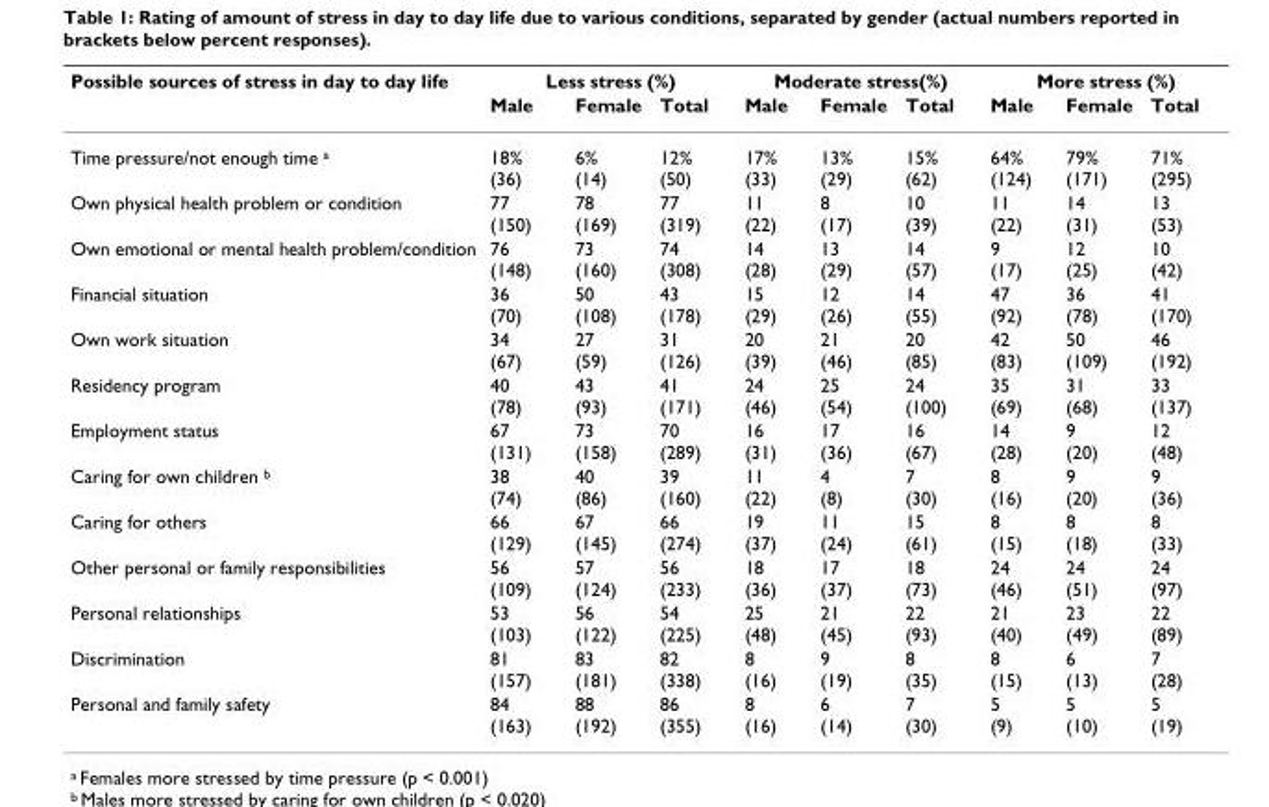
<table><thead><tr><td rowspan="2">Possible sources of stress in day to day life</td><td colspan="3">Less stress (%)</td><td colspan="3">Moderate stress(%)</td><td colspan="3">More stress (%)</td></tr><tr><td>Male</td><td>Female</td><td>Total</td><td>Male</td><td>Female</td><td>Total</td><td>Male</td><td>Female</td><td>Total</td></tr></thead><tbody><tr><td>Time pressure/not enough time <sup>a</sup></td><td>18% (36)</td><td>6% (14)</td><td>12% (50)</td><td>17% (33)</td><td>13% (29)</td><td>15% (62)</td><td>64% (124)</td><td>79% (171)</td><td>71% (295)</td></tr><tr><td>Own physical health problem or condition</td><td>77 (150)</td><td>78 (169)</td><td>77 (319)</td><td>11 (22)</td><td>8 (17)</td><td>10 (39)</td><td>11 (22)</td><td>14 (31)</td><td>13 (53)</td></tr><tr><td>Own emotional or mental health problem/condition</td><td>76 (148)</td><td>73 (160)</td><td>74 (308)</td><td>14 (28)</td><td>13 (29)</td><td>14 (57)</td><td>9 (17)</td><td>12 (25)</td><td>10 (42)</td></tr><tr><td>Financial situation</td><td>36 (70)</td><td>50 (108)</td><td>43 (178)</td><td>15 (29)</td><td>12 (26)</td><td>14 (55)</td><td>47 (92)</td><td>36 (78)</td><td>41 (170)</td></tr><tr><td>Own work situation</td><td>34 (67)</td><td>27 (59)</td><td>31 (126)</td><td>20 (39)</td><td>21 (46)</td><td>20 (85)</td><td>42 (83)</td><td>50 (109)</td><td>46 (192)</td></tr><tr><td>Residency program</td><td>40 (78)</td><td>43 (93)</td><td>41 (171)</td><td>24 (46)</td><td>25 (54)</td><td>24 (100)</td><td>35 (69)</td><td>31 (68)</td><td>33 (137)</td></tr><tr><td>Employment status</td><td>67 (131)</td><td>73 (158)</td><td>70 (289)</td><td>16 (31)</td><td>17 (36)</td><td>16 (67)</td><td>14 (28)</td><td>9 (20)</td><td>12 (48)</td></tr><tr><td>Caring for own children <sup>b</sup></td><td>38 (74)</td><td>40 (86)</td><td>39 (160)</td><td>11 (22)</td><td>4 (8)</td><td>7 (30)</td><td>8 (16)</td><td>9 (20)</td><td>9 (36)</td></tr><tr><td>Caring for others</td><td>66 (129)</td><td>67 (145)</td><td>66 (274)</td><td>19 (37)</td><td>11 (24)</td><td>15 (61)</td><td>8 (15)</td><td>8 (18)</td><td>8 (33)</td></tr><tr><td>Other personal or family responsibilities</td><td>56 (109)</td><td>57 (124)</td><td>56 (233)</td><td>18 (36)</td><td>17 (37)</td><td>18 (73)</td><td>24 (46)</td><td>24 (51)</td><td>24 (97)</td></tr><tr><td>Personal relationships</td><td>53 (103)</td><td>56 (122)</td><td>54 (225)</td><td>25 (48)</td><td>21 (45)</td><td>22 (93)</td><td>21 (40)</td><td>23 (49)</td><td>22 (89)</td></tr><tr><td>Discrimination</td><td>81 (157)</td><td>83 (181)</td><td>82 (338)</td><td>8 (16)</td><td>9 (19)</td><td>8 (35)</td><td>8 (15)</td><td>6 (13)</td><td>7 (28)</td></tr><tr><td>Personal and family safety</td><td>84 (163)</td><td>88 (192)</td><td>86 (355)</td><td>8 (16)</td><td>6 (14)</td><td>7 (30)</td><td>5 (9)</td><td>5 (10)</td><td>5 (19)</td></tr></tbody></table>